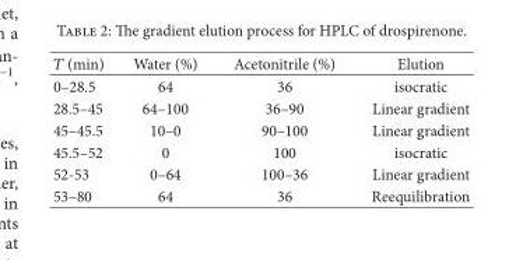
<table><thead><tr><td>𝑇𝑇 (min)</td><td>Water (%)</td><td>Acetonitrile (%)</td><td>Elution</td></tr></thead><tbody><tr><td>0–28.5</td><td>64</td><td>36</td><td>isocratic</td></tr><tr><td>28.5–45</td><td>64–100</td><td>36–90</td><td>Linear gradient</td></tr><tr><td>45–45.5</td><td>10–0</td><td>90–100</td><td>Linear gradient</td></tr><tr><td>45.5–52</td><td>0</td><td>100</td><td>isocratic</td></tr><tr><td>52-53</td><td>0–64</td><td>100–36</td><td>Linear gradient</td></tr><tr><td>53–80</td><td>64</td><td>36</td><td>Reequilibration</td></tr></tbody></table>